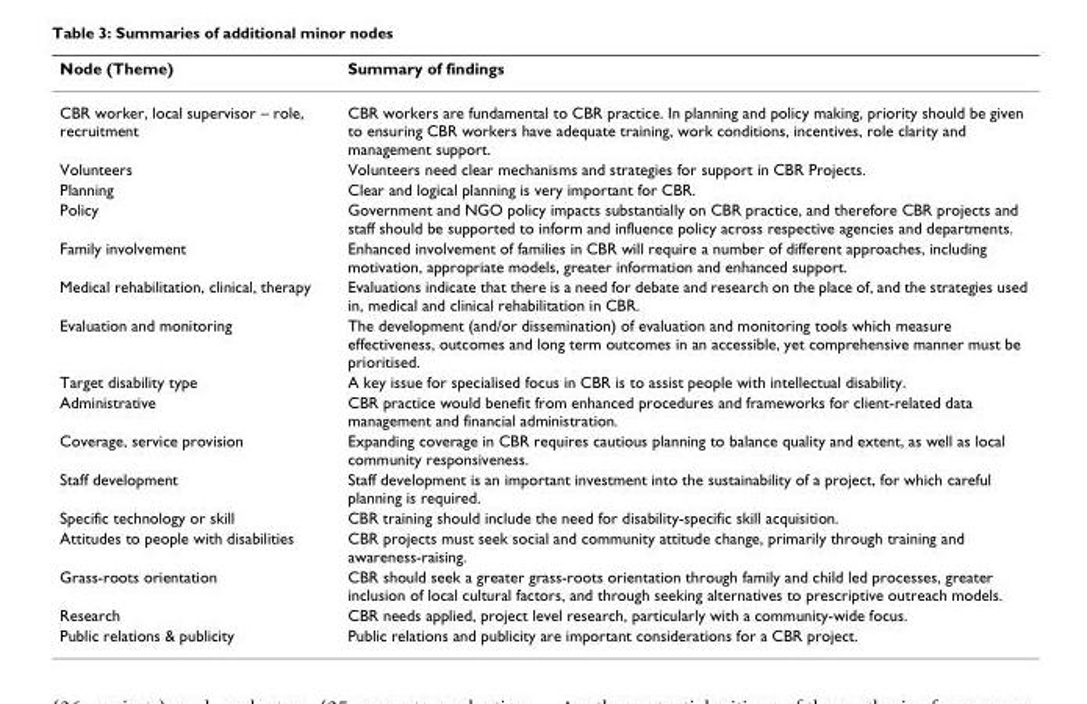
<table><thead><tr><td>Node (Theme)</td><td>Summary of findings</td></tr></thead><tbody><tr><td>CBR worker, local supervisor – role, recruitment</td><td>CBR workers are fundamental to CBR practice. In planning and policy making, priority should be given to ensuring CBR workers have adequate training, work conditions, incentives, role clarity and management support.</td></tr><tr><td>Volunteers</td><td>Volunteers need clear mechanisms and strategies for support in CBR Projects.</td></tr><tr><td>Planning</td><td>Clear and logical planning is very important for CBR.</td></tr><tr><td>Policy</td><td>Government and NGO policy impacts substantially on CBR practice, and therefore CBR projects and staff should be supported to inform and influence policy across respective agencies and departments.</td></tr><tr><td>Family involvement</td><td>Enhanced involvement of families in CBR will require a number of different approaches, including motivation, appropriate models, greater information and enhanced support.</td></tr><tr><td>Medical rehabilitation, clinical, therapy</td><td>Evaluations indicate that there is a need for debate and research on the place of, and the strategies used in, medical and clinical rehabilitation in CBR.</td></tr><tr><td>Evaluation and monitoring</td><td>The development (and/or dissemination) of evaluation and monitoring tools which measure effectiveness, outcomes and long term outcomes in an accessible, yet comprehensive manner must be prioritised.</td></tr><tr><td>Target disability type</td><td>A key issue for specialised focus in CBR is to assist people with intellectual disability.</td></tr><tr><td>Administrative</td><td>CBR practice would benefit from enhanced procedures and frameworks for client-related data management and financial administration.</td></tr><tr><td>Coverage, service provision</td><td>Expanding coverage in CBR requires cautious planning to balance quality and extent, as well as local community responsiveness.</td></tr><tr><td>Staff development</td><td>Staff development is an important investment into the sustainability of a project, for which careful planning is required.</td></tr><tr><td>Specific technology or skill</td><td>CBR training should include the need for disability-specific skill acquisition.</td></tr><tr><td>Attitudes to people with disabilities</td><td>CBR projects must seek social and community attitude change, primarily through training and awareness-raising.</td></tr><tr><td>Grass-roots orientation</td><td>CBR should seek a greater grass-roots orientation through family and child led processes, greater inclusion of local cultural factors, and through seeking alternatives to prescriptive outreach models.</td></tr><tr><td>Research</td><td>CBR needs applied, project level research, particularly with a community-wide focus.</td></tr><tr><td>Public relations &amp; publicity</td><td>Public relations and publicity are important considerations for a CBR project.</td></tr></tbody></table>